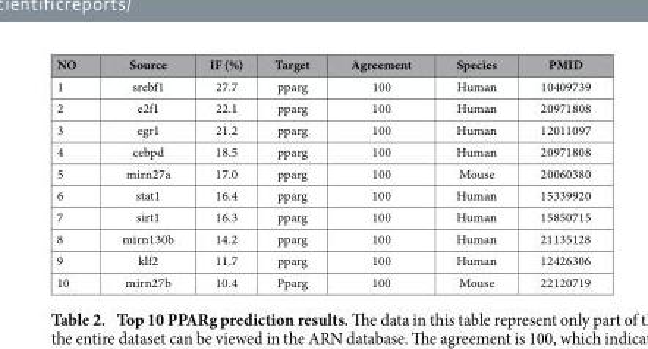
<table><thead><tr><td>NO</td><td>Source</td><td>IF (%)</td><td>Target</td><td>Agreement</td><td>Species</td><td>PMID</td></tr></thead><tbody><tr><td>1</td><td>srebf1</td><td>27.7</td><td>pparg</td><td>100</td><td>Human</td><td>10409739</td></tr><tr><td>2</td><td>e2f1</td><td>22.1</td><td>pparg</td><td>100</td><td>Human</td><td>20971808</td></tr><tr><td>3</td><td>egr1</td><td>21.2</td><td>pparg</td><td>100</td><td>Human</td><td>12011097</td></tr><tr><td>4</td><td>cebpd</td><td>18.5</td><td>pparg</td><td>100</td><td>Human</td><td>20971808</td></tr><tr><td>5</td><td>mirn27a</td><td>17.0</td><td>pparg</td><td>100</td><td>Mouse</td><td>20060380</td></tr><tr><td>6</td><td>stat1</td><td>16.4</td><td>pparg</td><td>100</td><td>Human</td><td>15339920</td></tr><tr><td>7</td><td>sirt1</td><td>16.3</td><td>pparg</td><td>100</td><td>Human</td><td>15850715</td></tr><tr><td>8</td><td>mirn130b</td><td>14.2</td><td>pparg</td><td>100</td><td>Human</td><td>21135128</td></tr><tr><td>9</td><td>klf2</td><td>11.7</td><td>pparg</td><td>100</td><td>Human</td><td>12426306</td></tr><tr><td>10</td><td>mirn27b</td><td>10.4</td><td>Pparg</td><td>100</td><td>Mouse</td><td>22120719</td></tr></tbody></table>